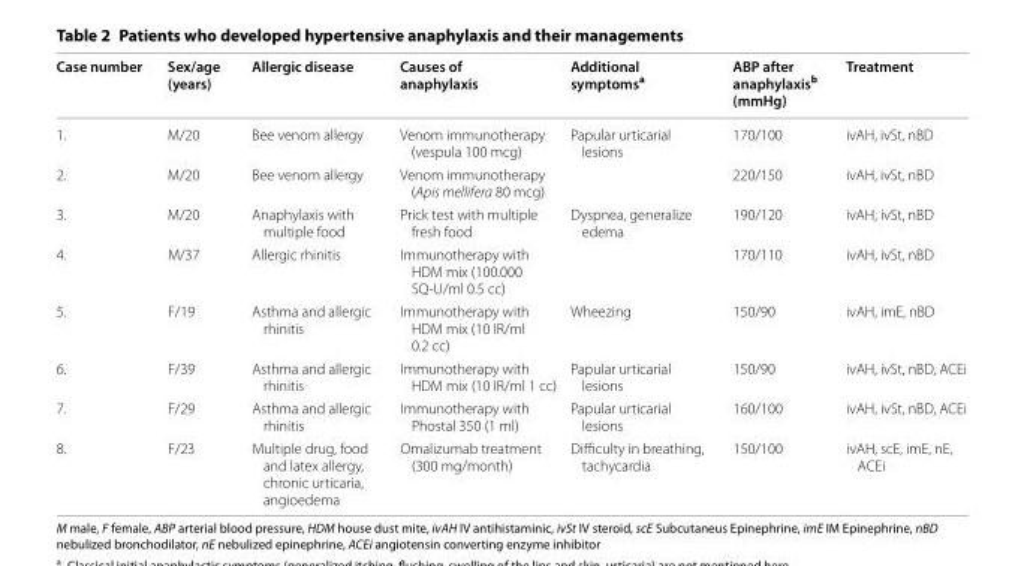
<table><thead><tr><td>Case number</td><td>Sex/age (years)</td><td>Allergic disease</td><td>Causes of anaphylaxis</td><td>Additional symptoms<sup>a</sup></td><td>ABP after anaphylaxis<sup>b</sup> (mmHg)</td><td>Treatment</td></tr></thead><tbody><tr><td>1.</td><td>M/20</td><td>Bee venom allergy</td><td>Venom immunotherapy (vespula 100 mcg)</td><td>Papular urticarial lesions</td><td>170/100</td><td>ivAH, ivSt, nBD</td></tr><tr><td>2.</td><td>M/20</td><td>Bee venom allergy</td><td>Venom immunotherapy (Apis mellifera 80 mcg)</td><td></td><td>220/150</td><td>ivAH, ivSt, nBD</td></tr><tr><td>3.</td><td>M/20</td><td>Anaphylaxis with multiple food</td><td>Prick test with multiple fresh food</td><td>Dyspnea, generalize edema</td><td>190/120</td><td>ivAH, ivSt, nBD</td></tr><tr><td>4.</td><td>M/37</td><td>Allergic rhinitis</td><td>Immunotherapy with HDM mix (100.000 SQ-U/ml 0.5 cc)</td><td></td><td>170/110</td><td>ivAH, ivSt, nBD</td></tr><tr><td>5.</td><td>F/19</td><td>Asthma and allergic rhinitis</td><td>Immunotherapy with HDM mix (10 IR/ml 0.2 cc)</td><td>Wheezing</td><td>150/90</td><td>ivAH, imE, nBD</td></tr><tr><td>6.</td><td>F/39</td><td>Asthma and allergic rhinitis</td><td>Immunotherapy with HDM mix (10 IR/ml 1 cc)</td><td>Papular urticarial lesions</td><td>150/90</td><td>ivAH, ivSt, nBD, ACEi</td></tr><tr><td>7.</td><td>F/29</td><td>Asthma and allergic rhinitis</td><td>Immunotherapy with Phostal 350 (1 ml)</td><td>Papular urticarial lesions</td><td>160/100</td><td>ivAH, ivSt, nBD, ACEi</td></tr><tr><td>8.</td><td>F/23</td><td>Multiple drug, food and latex allergy, chronic urticaria, angioedema</td><td>Omalizumab treatment (300 mg/month)</td><td>Difficulty in breathing, tachycardia</td><td>150/100</td><td>ivAH, scE, imE, nE, ACEi</td></tr></tbody></table>